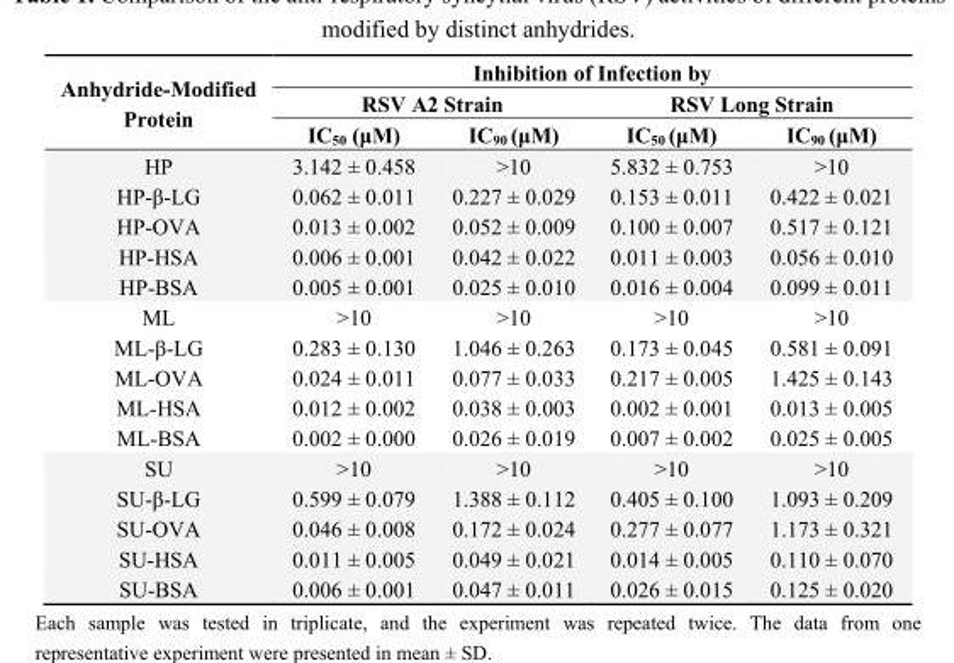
<table><thead><tr><td rowspan="3">Anhydride-Modified Protein</td><td colspan="4">Inhibition of Infection by</td></tr><tr><td colspan="2">RSV A2 Strain</td><td colspan="2">RSV Long Strain</td></tr><tr><td>IC<sub>50</sub> (μM)</td><td>IC<sub>90</sub> (μM)</td><td>IC<sub>50</sub> (μM)</td><td>IC<sub>90</sub> (μM)</td></tr></thead><tbody><tr><td>HP</td><td>3.142 ± 0.458</td><td>&gt;10</td><td>5.832 ± 0.753</td><td>&gt;10</td></tr><tr><td>HP-β-LG</td><td>0.062 ± 0.011</td><td>0.227 ± 0.029</td><td>0.153 ± 0.011</td><td>0.422 ± 0.021</td></tr><tr><td>HP-OVA</td><td>0.013 ± 0.002</td><td>0.052 ± 0.009</td><td>0.100 ± 0.007</td><td>0.517 ± 0.121</td></tr><tr><td>HP-HSA</td><td>0.006 ± 0.001</td><td>0.042 ± 0.022</td><td>0.011 ± 0.003</td><td>0.056 ± 0.010</td></tr><tr><td>HP-BSA</td><td>0.005 ± 0.001</td><td>0.025 ± 0.010</td><td>0.016 ± 0.004</td><td>0.099 ± 0.011</td></tr><tr><td>ML</td><td>&gt;10</td><td>&gt;10</td><td>&gt;10</td><td>&gt;10</td></tr><tr><td>ML-β-LG</td><td>0.283 ± 0.130</td><td>1.046 ± 0.263</td><td>0.173 ± 0.045</td><td>0.581 ± 0.091</td></tr><tr><td>ML-OVA</td><td>0.024 ± 0.011</td><td>0.077 ± 0.033</td><td>0.217 ± 0.005</td><td>1.425 ± 0.143</td></tr><tr><td>ML-HSA</td><td>0.012 ± 0.002</td><td>0.038 ± 0.003</td><td>0.002 ± 0.001</td><td>0.013 ± 0.005</td></tr><tr><td>ML-BSA</td><td>0.002 ± 0.000</td><td>0.026 ± 0.019</td><td>0.007 ± 0.002</td><td>0.025 ± 0.005</td></tr><tr><td>SU</td><td>&gt;10</td><td>&gt;10</td><td>&gt;10</td><td>&gt;10</td></tr><tr><td>SU-β-LG</td><td>0.599 ± 0.079</td><td>1.388 ± 0.112</td><td>0.405 ± 0.100</td><td>1.093 ± 0.209</td></tr><tr><td>SU-OVA</td><td>0.046 ± 0.008</td><td>0.172 ± 0.024</td><td>0.277 ± 0.077</td><td>1.173 ± 0.321</td></tr><tr><td>SU-HSA</td><td>0.011 ± 0.005</td><td>0.049 ± 0.021</td><td>0.014 ± 0.005</td><td>0.110 ± 0.070</td></tr><tr><td>SU-BSA</td><td>0.006 ± 0.001</td><td>0.047 ± 0.011</td><td>0.026 ± 0.015</td><td>0.125 ± 0.020</td></tr></tbody></table>